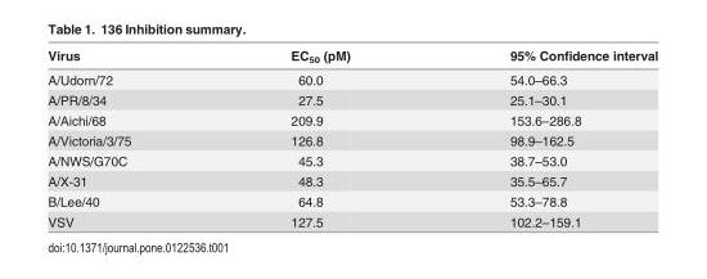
<table><thead><tr><td>Virus</td><td>EC<sub>50</sub> (pM)</td><td>95% Confidence interval</td></tr></thead><tbody><tr><td>A/Udorn/72</td><td>60.0</td><td>54.0–66.3</td></tr><tr><td>A/PR/8/34</td><td>27.5</td><td>25.1–30.1</td></tr><tr><td>A/Aichi/68</td><td>209.9</td><td>153.6–286.8</td></tr><tr><td>A/Victoria/3/75</td><td>126.8</td><td>98.9–162.5</td></tr><tr><td>A/NWS/G70C</td><td>45.3</td><td>38.7–53.0</td></tr><tr><td>A/X-31</td><td>48.3</td><td>35.5–65.7</td></tr><tr><td>B/Lee/40</td><td>64.8</td><td>53.3–78.8</td></tr><tr><td>VSV</td><td>127.5</td><td>102.2–159.1</td></tr></tbody></table>